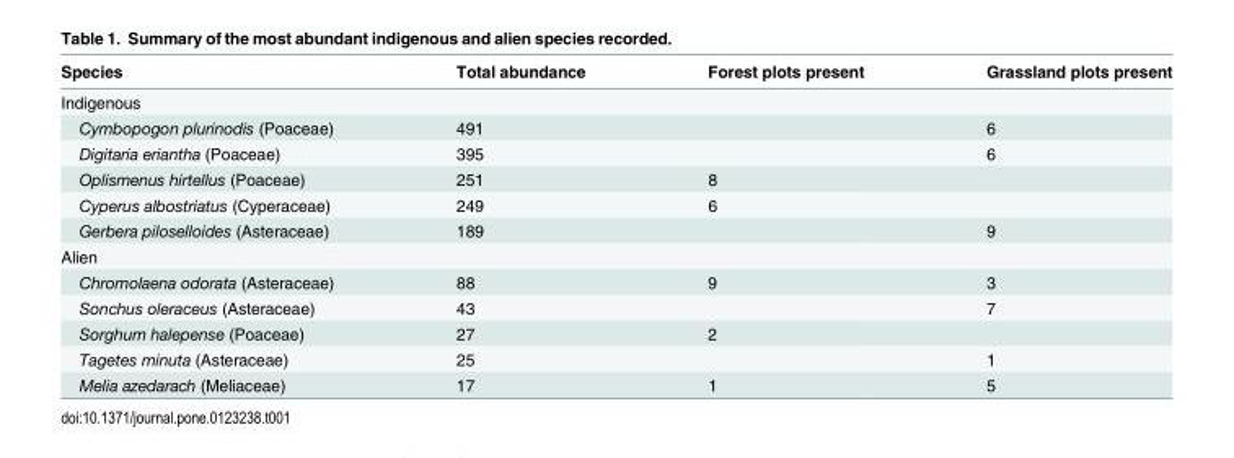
<table><thead><tr><td>Species</td><td>Total abundance</td><td>Forest plots present</td><td>Grassland plots present</td></tr></thead><tbody><tr><td colspan="4">Indigenous</td></tr><tr><td>Cymbopogon plurinodis (Poaceae)</td><td>491</td><td></td><td>6</td></tr><tr><td>Digitaria eriantha (Poaceae)</td><td>395</td><td></td><td>6</td></tr><tr><td>Oplismenus hirtellus (Poaceae)</td><td>251</td><td>8</td><td></td></tr><tr><td>Cyperus albostriatus (Cyperaceae)</td><td>249</td><td>6</td><td></td></tr><tr><td>Gerbera piloselloides (Asteraceae)</td><td>189</td><td></td><td>9</td></tr><tr><td colspan="4">Alien</td></tr><tr><td>Chromolaena odorata (Asteraceae)</td><td>88</td><td>9</td><td>3</td></tr><tr><td>Sonchus oleraceus (Asteraceae)</td><td>43</td><td></td><td>7</td></tr><tr><td>Sorghum halepense (Poaceae)</td><td>27</td><td>2</td><td></td></tr><tr><td>Tagetes minuta (Asteraceae)</td><td>25</td><td></td><td>1</td></tr><tr><td>Melia azedarach (Meliaceae)</td><td>17</td><td>1</td><td>5</td></tr></tbody></table>